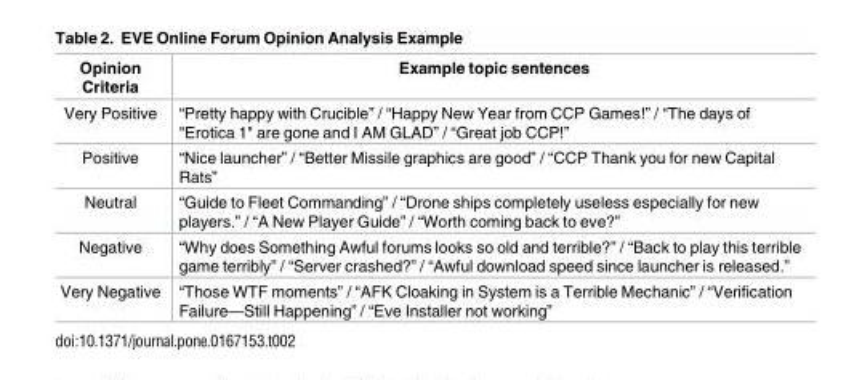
<table><thead><tr><td>Opinion Criteria</td><td>Example topic sentences</td></tr></thead><tbody><tr><td>Very Positive</td><td>“Pretty happy with Crucible” / “Happy New Year from CCP Games!” / “The days of &quot;Erotica 1&quot; are gone and I AM GLAD” / “Great job CCP!”</td></tr><tr><td>Positive</td><td>“Nice launcher” / “Better Missile graphics are good” / “CCP Thank you for new Capital Rats”</td></tr><tr><td>Neutral</td><td>“Guide to Fleet Commanding” / “Drone ships completely useless especially for new players.” / “A New Player Guide” / “Worth coming back to eve?”</td></tr><tr><td>Negative</td><td>“Why does Something Awful forums looks so old and terrible?” / “Back to play this terrible game terribly” / “Server crashed?” / “Awful download speed since launcher is released.”</td></tr><tr><td>Very Negative</td><td>“Those WTF moments” / “AFK Cloaking in System is a Terrible Mechanic” / “Verification Failure—Still Happening” / “Eve Installer not working”</td></tr></tbody></table>